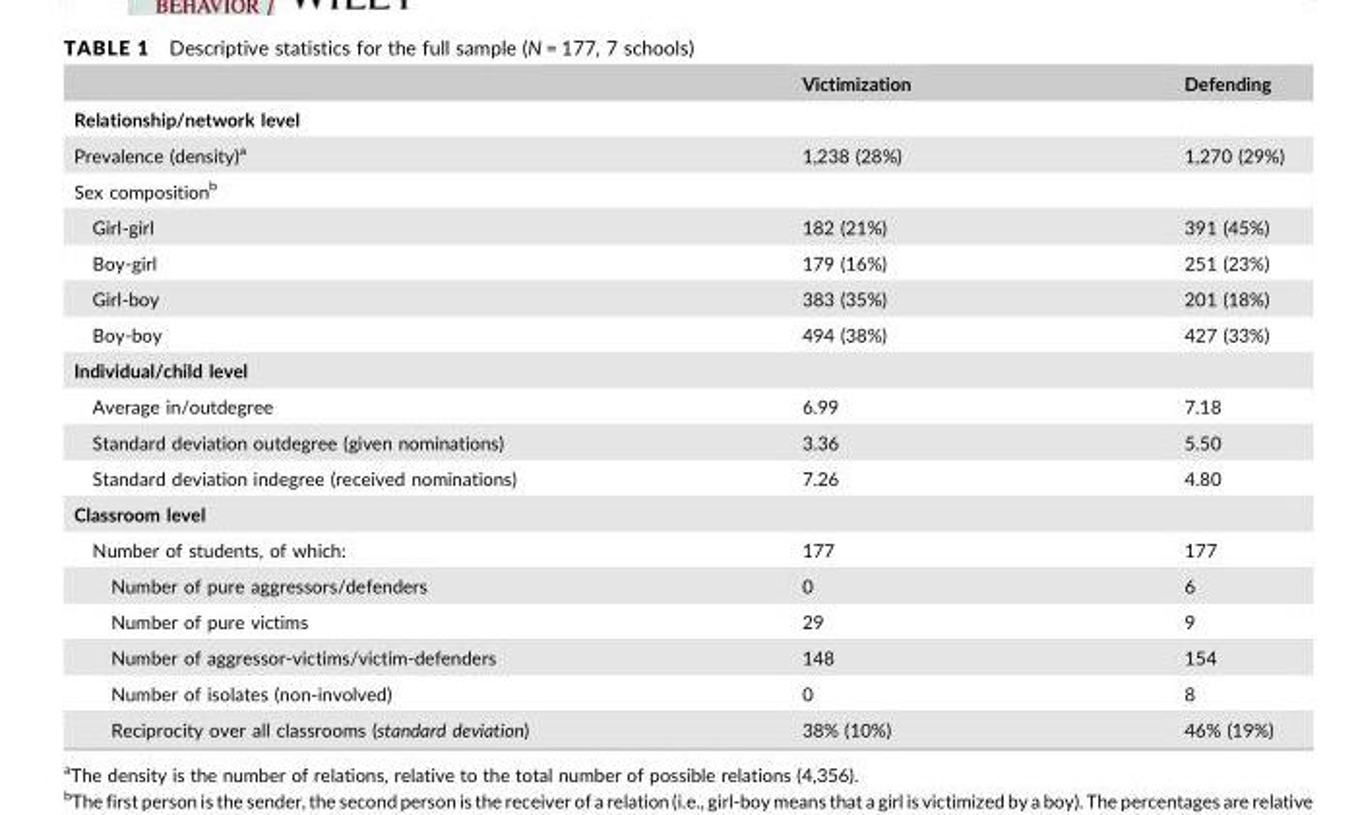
<table><thead><tr><td></td><td>Victimization</td><td>Defending</td></tr></thead><tbody><tr><td colspan="3">Relationship/network level</td></tr><tr><td>Prevalence (density)<sup>a</sup></td><td>1,238 (28%)</td><td>1,270 (29%)</td></tr><tr><td colspan="3">Sex composition<sup>b</sup></td></tr><tr><td>Girl-girl</td><td>182 (21%)</td><td>391 (45%)</td></tr><tr><td>Boy-girl</td><td>179 (16%)</td><td>251 (23%)</td></tr><tr><td>Girl-boy</td><td>383 (35%)</td><td>201 (18%)</td></tr><tr><td>Boy-boy</td><td>494 (38%)</td><td>427 (33%)</td></tr><tr><td colspan="3">Individual/child level</td></tr><tr><td>Average in/outdegree</td><td>6.99</td><td>7.18</td></tr><tr><td>Standard deviation outdegree (given nominations)</td><td>3.36</td><td>5.50</td></tr><tr><td>Standard deviation indegree (received nominations)</td><td>7.26</td><td>4.80</td></tr><tr><td colspan="3">Classroom level</td></tr><tr><td>Number of students, of which:</td><td>177</td><td>177</td></tr><tr><td>Number of pure aggressors/defenders</td><td>0</td><td>6</td></tr><tr><td>Number of pure victims</td><td>29</td><td>9</td></tr><tr><td>Number of aggressor-victims/victim-defenders</td><td>148</td><td>154</td></tr><tr><td>Number of isolates (non-involved)</td><td>0</td><td>8</td></tr><tr><td>Reciprocity over all classrooms (standard deviation)</td><td>38% (10%)</td><td>46% (19%)</td></tr></tbody></table>